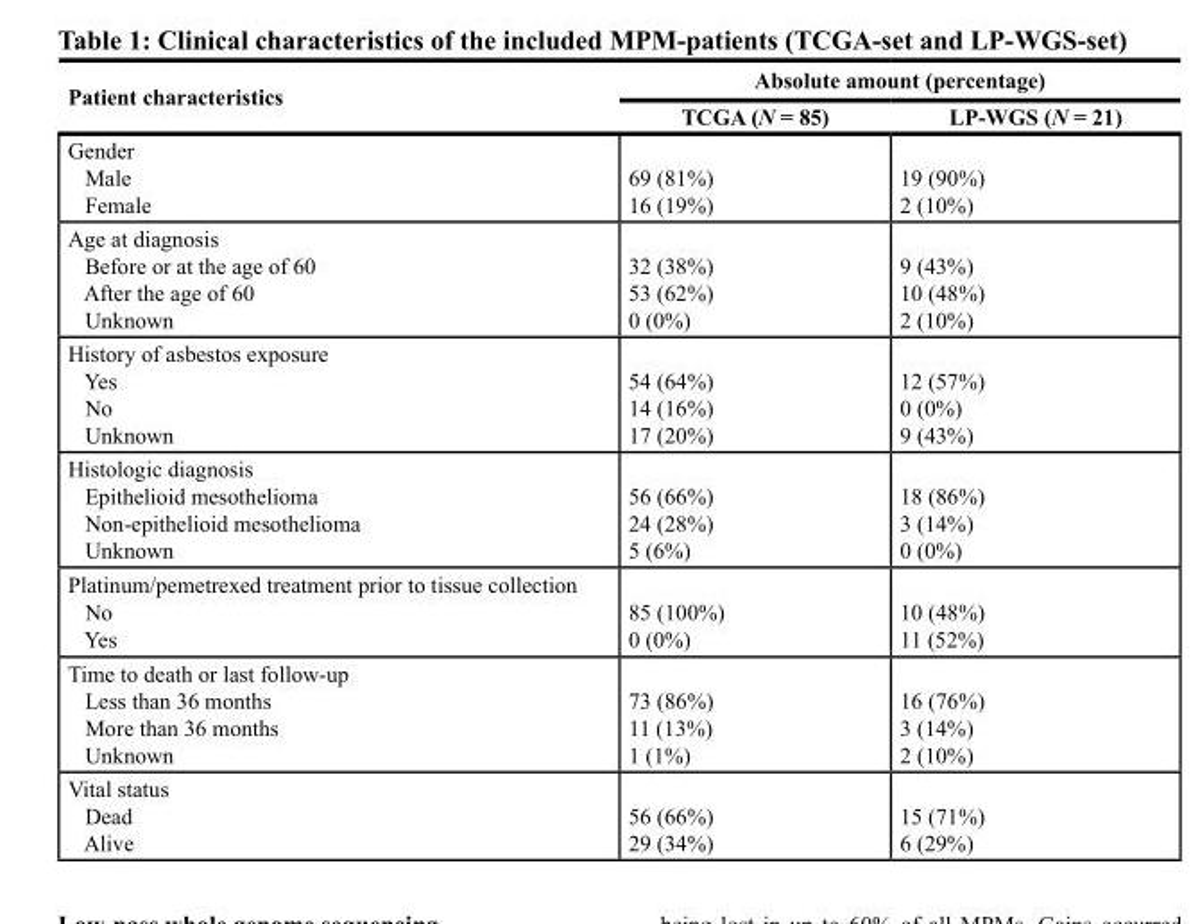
<table><thead><tr><td rowspan="2">Patient characteristics</td><td colspan="2">Absolute amount (percentage)</td></tr><tr><td>TCGA (N = 85)</td><td>LP-WGS (N = 21)</td></tr></thead><tbody><tr><td>Gender Male Female</td><td>69 (81%) 16 (19%)</td><td>19 (90%) 2 (10%)</td></tr><tr><td>Age at diagnosis Before or at the age of 60 After the age of 60 Unknown</td><td>32 (38%) 53 (62%) 0 (0%)</td><td>9 (43%) 10 (48%) 2 (10%)</td></tr><tr><td>History of asbestos exposure Yes No Unknown</td><td>54 (64%) 14 (16%) 17 (20%)</td><td>12 (57%) 0 (0%) 9 (43%)</td></tr><tr><td>Histologic diagnosis Epithelioid mesothelioma Non-epithelioid mesothelioma Unknown</td><td>56 (66%) 24 (28%) 5 (6%)</td><td>18 (86%) 3 (14%) 0 (0%)</td></tr><tr><td>Platinum/pemetrexed treatment prior to tissue collection No Yes</td><td>85 (100%) 0 (0%)</td><td>10 (48%) 11 (52%)</td></tr><tr><td>Time to death or last follow-up Less than 36 months More than 36 months Unknown</td><td>73 (86%) 11 (13%) 1 (1%)</td><td>16 (76%) 3 (14%) 2 (10%)</td></tr><tr><td>Vital status Dead Alive</td><td>56 (66%) 29 (34%)</td><td>15 (71%) 6 (29%)</td></tr></tbody></table>